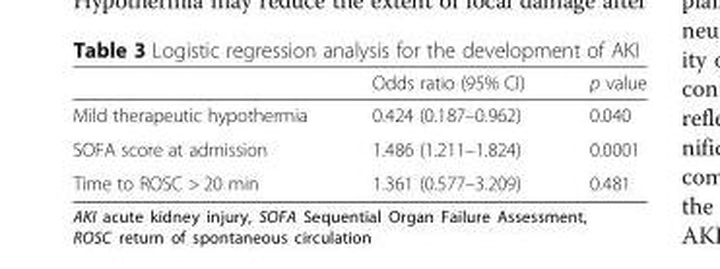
<table><thead><tr><td></td><td>Odds ratio (95% CI)</td><td>p value</td></tr></thead><tbody><tr><td>Mild therapeutic hypothermia</td><td>0.424 (0.187–0.962)</td><td>0.040</td></tr><tr><td>SOFA score at admission</td><td>1.486 (1.211–1.824)</td><td>0.0001</td></tr><tr><td>Time to ROSC &gt; 20 min</td><td>1.361 (0.577–3.209)</td><td>0.481</td></tr></tbody></table>